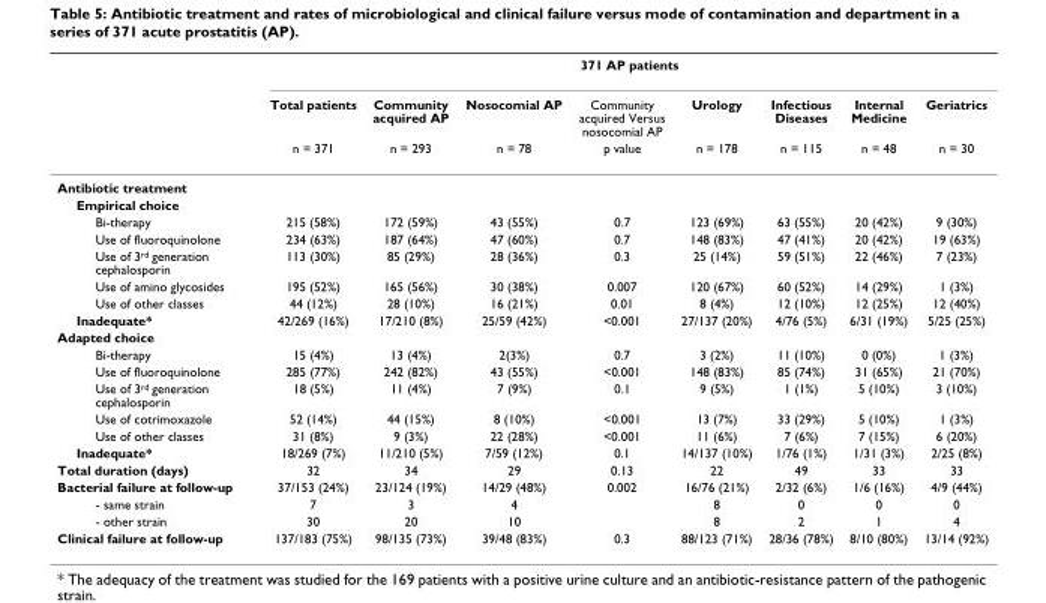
<table><thead><tr><td rowspan="3"></td><td colspan="8">371 AP patients</td></tr><tr><td rowspan="2">Total patients n = 371</td><td rowspan="2">Community acquired AP n = 293</td><td rowspan="2">Nosocomial AP n = 78</td><td rowspan="2">Community acquired Versus nosocomial AP p value</td><td rowspan="2">Urology n = 178</td><td rowspan="2">Infectious Diseases n = 115</td><td rowspan="2">Internal Medicine n = 48</td><td rowspan="2">Geriatrics n = 30</td></tr><tr></tr></thead><tbody><tr><td colspan="9">Antibiotic treatment</td></tr><tr><td colspan="9">Empirical choice</td></tr><tr><td>Bi-therapy</td><td>215 (58%)</td><td>172 (59%)</td><td>43 (55%)</td><td>0.7</td><td>123 (69%)</td><td>63 (55%)</td><td>20 (42%)</td><td>9 (30%)</td></tr><tr><td>Use of fluoroquinolone</td><td>234 (63%)</td><td>187 (64%)</td><td>47 (60%)</td><td>0.7</td><td>148 (83%)</td><td>47 (41%)</td><td>20 (42%)</td><td>19 (63%)</td></tr><tr><td>Use of 3<sup>rd</sup> generation cephalosporin</td><td>113 (30%)</td><td>85 (29%)</td><td>28 (36%)</td><td>0.3</td><td>25 (14%)</td><td>59 (51%)</td><td>22 (46%)</td><td>7 (23%)</td></tr><tr><td>Use of amino glycosides</td><td>195 (52%)</td><td>165 (56%)</td><td>30 (38%)</td><td>0.007</td><td>120 (67%)</td><td>60 (52%)</td><td>14 (29%)</td><td>1 (3%)</td></tr><tr><td>Use of other classes</td><td>44 (12%)</td><td>28 (10%)</td><td>16 (21%)</td><td>0.01</td><td>8 (4%)</td><td>12 (10%)</td><td>12 (25%)</td><td>12 (40%)</td></tr><tr><td>Inadequate*</td><td>42/269 (16%)</td><td>17/210 (8%)</td><td>25/59 (42%)</td><td>&lt;0.001</td><td>27/137 (20%)</td><td>4/76 (5%)</td><td>6/31 (19%)</td><td>5/25 (25%)</td></tr><tr><td colspan="9">Adapted choice</td></tr><tr><td>Bi-therapy</td><td>15 (4%)</td><td>13 (4%)</td><td>2(3%)</td><td>0.7</td><td>3 (2%)</td><td>11 (10%)</td><td>0 (0%)</td><td>1 (3%)</td></tr><tr><td>Use of fluoroquinolone</td><td>285 (77%)</td><td>242 (82%)</td><td>43 (55%)</td><td>&lt;0.001</td><td>148 (83%)</td><td>85 (74%)</td><td>31 (65%)</td><td>21 (70%)</td></tr><tr><td>Use of 3<sup>rd</sup> generation cephalosporin</td><td>18 (5%)</td><td>11 (4%)</td><td>7 (9%)</td><td>0.1</td><td>9 (5%)</td><td>1 (1%)</td><td>5 (10%)</td><td>3 (10%)</td></tr><tr><td>Use of cotrimoxazole</td><td>52 (14%)</td><td>44 (15%)</td><td>8 (10%)</td><td>&lt;0.001</td><td>13 (7%)</td><td>33 (29%)</td><td>5 (10%)</td><td>1 (3%)</td></tr><tr><td>Use of other classes</td><td>31 (8%)</td><td>9 (3%)</td><td>22 (28%)</td><td>&lt;0.001</td><td>11 (6%)</td><td>7 (6%)</td><td>7 (15%)</td><td>6 (20%)</td></tr><tr><td>Inadequate*</td><td>18/269 (7%)</td><td>11/210 (5%)</td><td>7/59 (12%)</td><td>0.1</td><td>14/137 (10%)</td><td>1/76 (1%)</td><td>1/31 (3%)</td><td>2/25 (8%)</td></tr><tr><td>Total duration (days)</td><td>32</td><td>34</td><td>29</td><td>0.13</td><td>22</td><td>49</td><td>33</td><td>33</td></tr><tr><td>Bacterial failure at follow-up</td><td>37/153 (24%)</td><td>23/124 (19%)</td><td>14/29 (48%)</td><td>0.002</td><td>16/76 (21%)</td><td>2/32 (6%)</td><td>1/6 (16%)</td><td>4/9 (44%)</td></tr><tr><td>- same strain</td><td>7</td><td>3</td><td>4</td><td></td><td>8</td><td>0</td><td>0</td><td>0</td></tr><tr><td>- other strain</td><td>30</td><td>20</td><td>10</td><td></td><td>8</td><td>2</td><td>1</td><td>4</td></tr><tr><td>Clinical failure at follow-up</td><td>137/183 (75%)</td><td>98/135 (73%)</td><td>39/48 (83%)</td><td>0.3</td><td>88/123 (71%)</td><td>28/36 (78%)</td><td>8/10 (80%)</td><td>13/14 (92%)</td></tr></tbody></table>